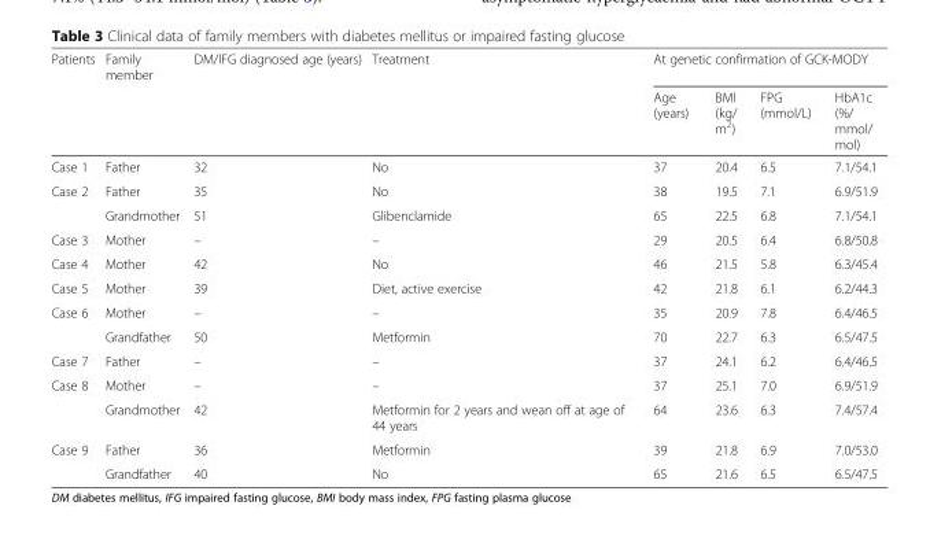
<table><thead><tr><td rowspan="2">Patients</td><td rowspan="2">Family member</td><td rowspan="2">DM/IFG diagnosed age (years)</td><td rowspan="2">Treatment</td><td colspan="4">At genetic confirmation of GCK-MODY</td></tr><tr><td>Age (years)</td><td>BMI (kg/ m<sup>2</sup>)</td><td>FPG (mmol/L)</td><td>HbA1c (%/ mmol/ mol)</td></tr></thead><tbody><tr><td>Case 1</td><td>Father</td><td>32</td><td>No</td><td>37</td><td>20.4</td><td>6.5</td><td>7.1/54.1</td></tr><tr><td rowspan="2">Case 2</td><td>Father</td><td>35</td><td>No</td><td>38</td><td>19.5</td><td>7.1</td><td>6.9/51.9</td></tr><tr><td>Grandmother</td><td>51</td><td>Glibenclamide</td><td>65</td><td>22.5</td><td>6.8</td><td>7.1/54.1</td></tr><tr><td>Case 3</td><td>Mother</td><td>–</td><td>–</td><td>29</td><td>20.5</td><td>6.4</td><td>6.8/50.8</td></tr><tr><td>Case 4</td><td>Mother</td><td>42</td><td>No</td><td>46</td><td>21.5</td><td>5.8</td><td>6.3/45.4</td></tr><tr><td>Case 5</td><td>Mother</td><td>39</td><td>Diet, active exercise</td><td>42</td><td>21.8</td><td>6.1</td><td>6.2/44.3</td></tr><tr><td rowspan="2">Case 6</td><td>Mother</td><td>–</td><td>–</td><td>35</td><td>20.9</td><td>7.8</td><td>6.4/46.5</td></tr><tr><td>Grandfather</td><td>50</td><td>Metformin</td><td>70</td><td>22.7</td><td>6.3</td><td>6.5/47.5</td></tr><tr><td>Case 7</td><td>Father</td><td>–</td><td>–</td><td>37</td><td>24.1</td><td>6.2</td><td>6.4/46.5</td></tr><tr><td rowspan="2">Case 8</td><td>Mother</td><td>–</td><td>–</td><td>37</td><td>25.1</td><td>7.0</td><td>6.9/51.9</td></tr><tr><td>Grandmother</td><td>42</td><td>Metformin for 2 years and wean off at age of 44 years</td><td>64</td><td>23.6</td><td>6.3</td><td>7.4/57.4</td></tr><tr><td rowspan="2">Case 9</td><td>Father</td><td>36</td><td>Metformin</td><td>39</td><td>21.8</td><td>6.9</td><td>7.0/53.0</td></tr><tr><td>Grandfather</td><td>40</td><td>No</td><td>65</td><td>21.6</td><td>6.5</td><td>6.5/47.5</td></tr></tbody></table>